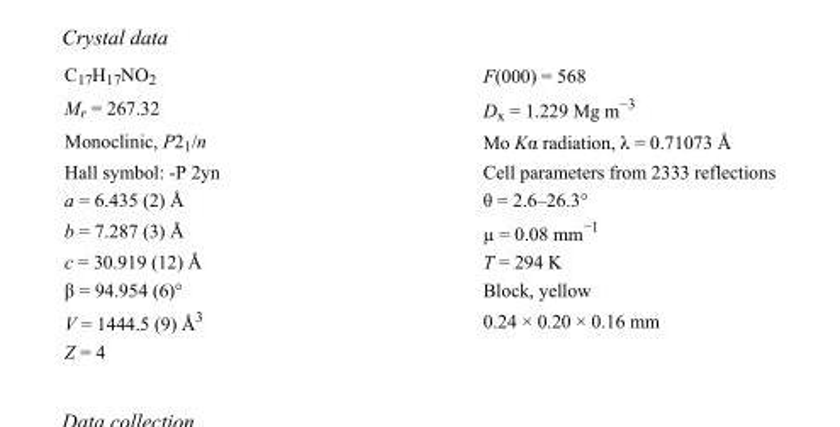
<table><tbody><tr><td>C<sub>17</sub>H<sub>17</sub>NO<sub>2</sub></td><td>F(000) = 568</td></tr><tr><td>M<sub>r</sub> = 267.32</td><td>D<sub>x</sub> = 1.229 Mg m<sup>−3</sup></td></tr><tr><td>Monoclinic, P2<sub>1</sub>/n</td><td>Mo Kα radiation, λ = 0.71073 Å</td></tr><tr><td>Hall symbol: -P 2yn</td><td>Cell parameters from 2333 reflections</td></tr><tr><td>a = 6.435 (2) Å</td><td>θ = 2.6–26.3°</td></tr><tr><td>b = 7.287 (3) Å</td><td>µ = 0.08 mm<sup>−1</sup></td></tr><tr><td>c = 30.919 (12) Å</td><td>T = 294 K</td></tr><tr><td>β = 94.954 (6)°</td><td>Block, yellow</td></tr><tr><td>V = 1444.5 (9) Å<sup>3</sup></td><td>0.24 × 0.20 × 0.16 mm</td></tr><tr><td>Z = 4</td><td></td></tr></tbody></table>